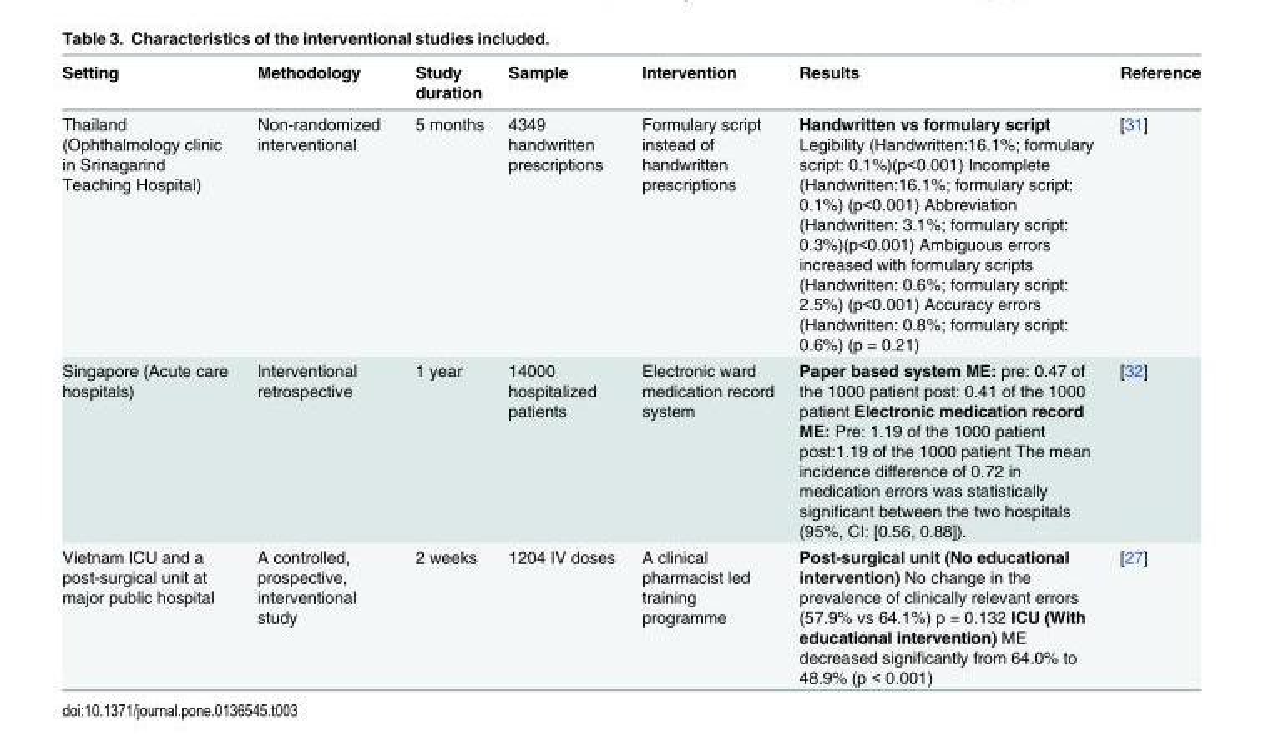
<table><thead><tr><td>Setting</td><td>Methodology</td><td>Study duration</td><td>Sample</td><td>Intervention</td><td>Results</td><td>Reference</td></tr></thead><tbody><tr><td>Thailand (Ophthalmology clinic in Srinagarind Teaching Hospital)</td><td>Non-randomized interventional</td><td>5 months</td><td>4349 handwritten prescriptions</td><td>Formulary script instead of handwritten prescriptions</td><td>Handwritten vs formulary script Legibility (Handwritten:16.1%; formulary script: 0.1%)(p&lt;0.001) Incomplete (Handwritten:16.1%; formulary script: 0.1%) (p&lt;0.001) Abbreviation (Handwritten: 3.1%; formulary script: 0.3%)(p&lt;0.001) Ambiguous errors increased with formulary scripts (Handwritten: 0.6%; formulary script: 2.5%) (p&lt;0.001) Accuracy errors (Handwritten: 0.8%; formulary script: 0.6%) (p = 0.21)</td><td>[31]</td></tr><tr><td>Singapore (Acute care hospitals)</td><td>Interventional retrospective</td><td>1 year</td><td>14000 hospitalized patients</td><td>Electronic ward medication record system</td><td>Paper based system ME: pre: 0.47 of the 1000 patient post: 0.41 of the 1000 patient Electronic medication record ME: Pre: 1.19 of the 1000 patient post:1.19 of the 1000 patient The mean incidence difference of 0.72 in medication errors was statistically significant between the two hospitals (95%, CI: [0.56, 0.88]).</td><td>[32]</td></tr><tr><td>Vietnam ICU and a post-surgical unit at major public hospital</td><td>A controlled, prospective, interventional study</td><td>2 weeks</td><td>1204 IV doses</td><td>A clinical pharmacist led training programme</td><td>Post-surgical unit (No educational intervention) No change in the prevalence of clinically relevant errors (57.9% vs 64.1%) p = 0.132 ICU (With educational intervention) ME decreased significantly from 64.0% to 48.9% (p &lt; 0.001)</td><td>[27]</td></tr></tbody></table>